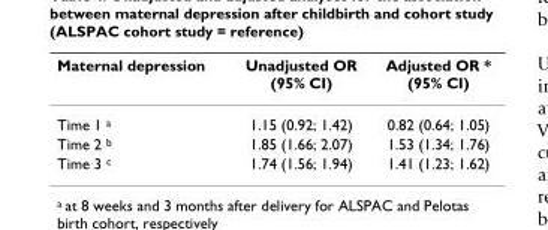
<table><thead><tr><td>Maternal depression</td><td>Unadjusted OR (95% CI)</td><td>Adjusted OR * (95% CI)</td></tr></thead><tbody><tr><td>Time 1 <sup>a</sup></td><td>1.15 (0.92; 1.42)</td><td>0.82 (0.64; 1.05)</td></tr><tr><td>Time 2 <sup>b</sup></td><td>1.85 (1.66; 2.07)</td><td>1.53 (1.34; 1.76)</td></tr><tr><td>Time 3 <sup>c</sup></td><td>1.74 (1.56; 1.94)</td><td>1.41 (1.23; 1.62)</td></tr></tbody></table>